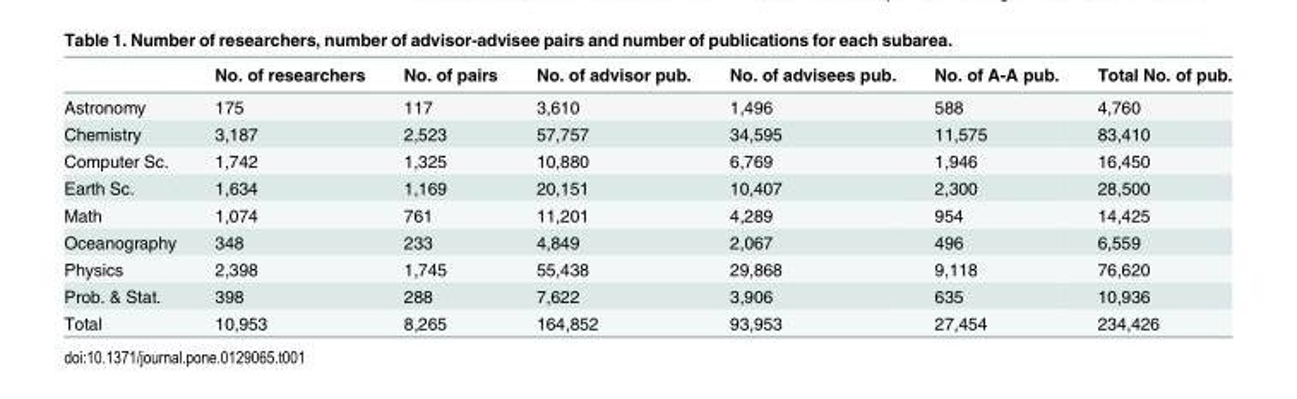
<table><thead><tr><td></td><td>No. of researchers</td><td>No. of pairs</td><td>No. of advisor pub.</td><td>No. of advisees pub.</td><td>No. of A-A pub.</td><td>Total No. of pub.</td></tr></thead><tbody><tr><td>Astronomy</td><td>175</td><td>117</td><td>3,610</td><td>1,496</td><td>588</td><td>4,760</td></tr><tr><td>Chemistry</td><td>3,187</td><td>2,523</td><td>57,757</td><td>34,595</td><td>11,575</td><td>83,410</td></tr><tr><td>Computer Sc.</td><td>1,742</td><td>1,325</td><td>10,880</td><td>6,769</td><td>1,946</td><td>16,450</td></tr><tr><td>Earth Sc.</td><td>1,634</td><td>1,169</td><td>20,151</td><td>10,407</td><td>2,300</td><td>28,500</td></tr><tr><td>Math</td><td>1,074</td><td>761</td><td>11,201</td><td>4,289</td><td>954</td><td>14,425</td></tr><tr><td>Oceanography</td><td>348</td><td>233</td><td>4,849</td><td>2,067</td><td>496</td><td>6,559</td></tr><tr><td>Physics</td><td>2,398</td><td>1,745</td><td>55,438</td><td>29,868</td><td>9,118</td><td>76,620</td></tr><tr><td>Prob. &amp; Stat.</td><td>398</td><td>288</td><td>7,622</td><td>3,906</td><td>635</td><td>10,936</td></tr><tr><td>Total</td><td>10,953</td><td>8,265</td><td>164,852</td><td>93,953</td><td>27,454</td><td>234,426</td></tr></tbody></table>